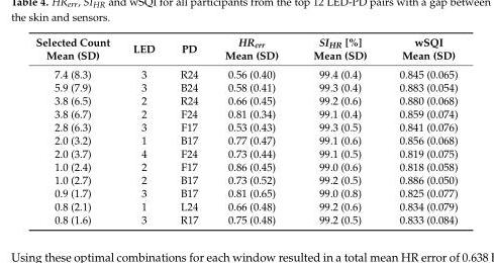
<table><thead><tr><td>Selected Count Mean (SD)</td><td>LED</td><td>PD</td><td>HR<sub>err</sub> Mean (SD)</td><td>SI<sub>HR</sub> [%] Mean (SD)</td><td>wSQI Mean (SD)</td></tr></thead><tbody><tr><td>7.4 (8.3)</td><td>3</td><td>R24</td><td>0.56 (0.40)</td><td>99.4 (0.4)</td><td>0.845 (0.065)</td></tr><tr><td>5.9 (7.9)</td><td>3</td><td>B24</td><td>0.58 (0.41)</td><td>99.3 (0.4)</td><td>0.883 (0.054)</td></tr><tr><td>3.8 (6.5)</td><td>2</td><td>R24</td><td>0.66 (0.45)</td><td>99.2 (0.6)</td><td>0.880 (0.068)</td></tr><tr><td>3.8 (6.7)</td><td>2</td><td>F24</td><td>0.81 (0.34)</td><td>99.1 (0.4)</td><td>0.859 (0.074)</td></tr><tr><td>2.8 (6.3)</td><td>3</td><td>F17</td><td>0.53 (0.43)</td><td>99.3 (0.5)</td><td>0.841 (0.076)</td></tr><tr><td>2.0 (3.2)</td><td>1</td><td>B17</td><td>0.77 (0.47)</td><td>99.1 (0.6)</td><td>0.856 (0.068)</td></tr><tr><td>2.0 (3.7)</td><td>4</td><td>F24</td><td>0.73 (0.44)</td><td>99.1 (0.5)</td><td>0.819 (0.075)</td></tr><tr><td>1.0 (2.4)</td><td>2</td><td>F17</td><td>0.86 (0.45)</td><td>99.0 (0.6)</td><td>0.818 (0.058)</td></tr><tr><td>1.0 (2.7)</td><td>2</td><td>B17</td><td>0.73 (0.52)</td><td>99.2 (0.5)</td><td>0.886 (0.050)</td></tr><tr><td>0.9 (1.7)</td><td>3</td><td>B17</td><td>0.81 (0.65)</td><td>99.0 (0.8)</td><td>0.825 (0.077)</td></tr><tr><td>0.8 (2.1)</td><td>1</td><td>L24</td><td>0.66 (0.48)</td><td>99.2 (0.6)</td><td>0.834 (0.079)</td></tr><tr><td>0.8 (1.6)</td><td>3</td><td>R17</td><td>0.75 (0.48)</td><td>99.2 (0.5)</td><td>0.833 (0.084)</td></tr></tbody></table>